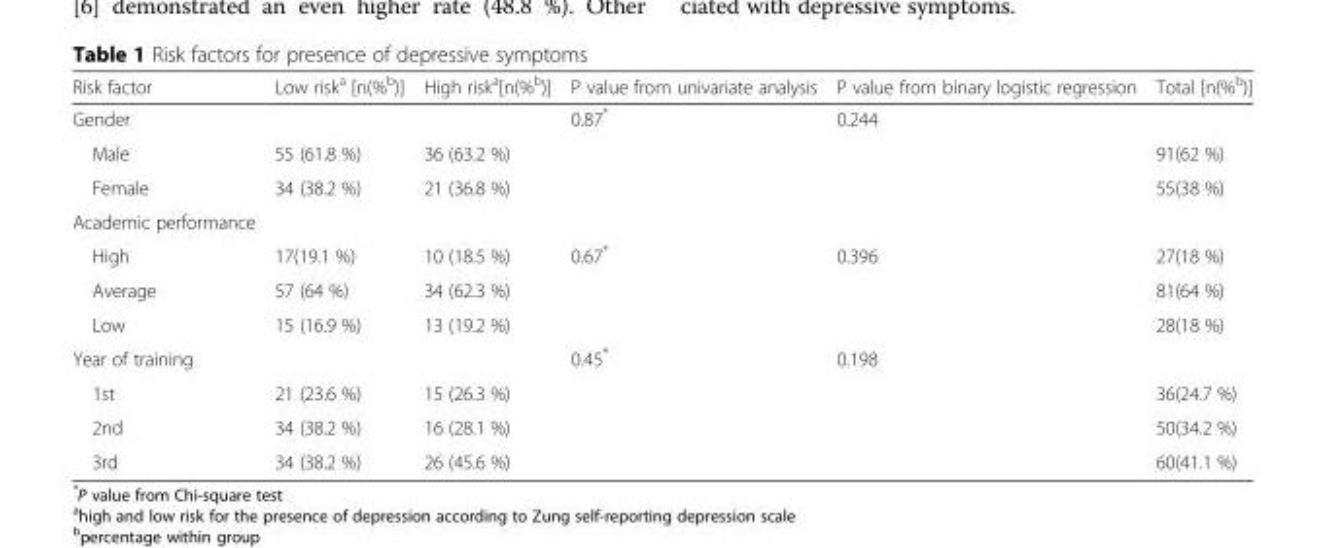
<table><thead><tr><td>Risk factor</td><td>Low risk<sup>a</sup> [n(%<sup>b</sup>)]</td><td>High risk<sup>a</sup>[n(%<sup>b</sup>)]</td><td>P value from univariate analysis</td><td>P value from binary logistic regression</td><td>Total [n(%<sup>b</sup>)]</td></tr></thead><tbody><tr><td>Gender</td><td></td><td></td><td>0.87*</td><td>0.244</td><td></td></tr><tr><td>Male</td><td>55 (61.8 %)</td><td>36 (63.2 %)</td><td></td><td></td><td>91(62 %)</td></tr><tr><td>Female</td><td>34 (38.2 %)</td><td>21 (36.8 %)</td><td></td><td></td><td>55(38 %)</td></tr><tr><td colspan="6">Academic performance</td></tr><tr><td>High</td><td>17(19.1 %)</td><td>10 (18.5 %)</td><td>0.67*</td><td>0.396</td><td>27(18 %)</td></tr><tr><td>Average</td><td>57 (64 %)</td><td>34 (62.3 %)</td><td></td><td></td><td>81(64 %)</td></tr><tr><td>Low</td><td>15 (16.9 %)</td><td>13 (19.2 %)</td><td></td><td></td><td>28(18 %)</td></tr><tr><td>Year of training</td><td></td><td></td><td>0.45*</td><td>0.198</td><td></td></tr><tr><td>1st</td><td>21 (23.6 %)</td><td>15 (26.3 %)</td><td></td><td></td><td>36(24.7 %)</td></tr><tr><td>2nd</td><td>34 (38.2 %)</td><td>16 (28.1 %)</td><td></td><td></td><td>50(34.2 %)</td></tr><tr><td>3rd</td><td>34 (38.2 %)</td><td>26 (45.6 %)</td><td></td><td></td><td>60(41.1 %)</td></tr></tbody></table>